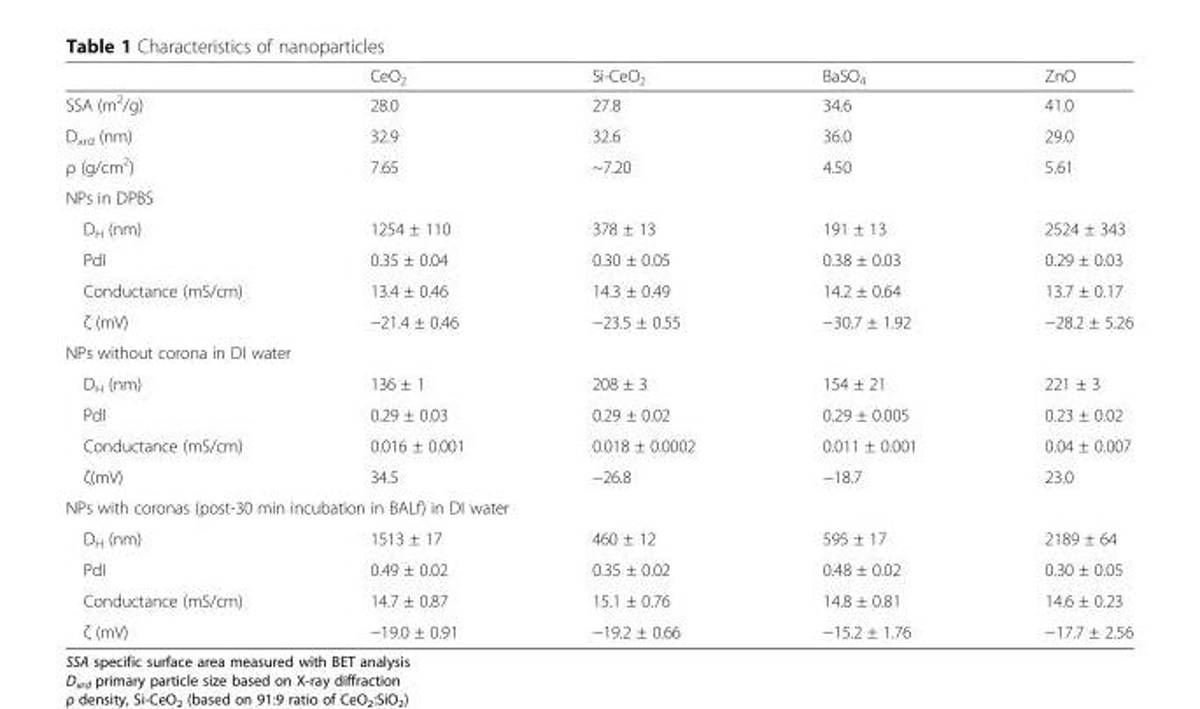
<table><thead><tr><td></td><td>CeO<sub>2</sub></td><td>Si-CeO<sub>2</sub></td><td>BaSO<sub>4</sub></td><td>ZnO</td></tr></thead><tbody><tr><td>SSA (m<sup>2</sup>/g)</td><td>28.0</td><td>27.8</td><td>34.6</td><td>41.0</td></tr><tr><td>D<sub>xrd</sub> (nm)</td><td>32.9</td><td>32.6</td><td>36.0</td><td>29.0</td></tr><tr><td>ρ (g/cm<sup>2</sup>)</td><td>7.65</td><td>~7.20</td><td>4.50</td><td>5.61</td></tr><tr><td colspan="5">NPs in DPBS</td></tr><tr><td>D<sub>H</sub> (nm)</td><td>1254 ± 110</td><td>378 ± 13</td><td>191 ± 13</td><td>2524 ± 343</td></tr><tr><td>PdI</td><td>0.35 ± 0.04</td><td>0.30 ± 0.05</td><td>0.38 ± 0.03</td><td>0.29 ± 0.03</td></tr><tr><td>Conductance (mS/cm)</td><td>13.4 ± 0.46</td><td>14.3 ± 0.49</td><td>14.2 ± 0.64</td><td>13.7 ± 0.17</td></tr><tr><td>ζ (mV)</td><td>−21.4 ± 0.46</td><td>−23.5 ± 0.55</td><td>−30.7 ± 1.92</td><td>−28.2 ± 5.26</td></tr><tr><td colspan="5">NPs without corona in DI water</td></tr><tr><td>D<sub>H</sub> (nm)</td><td>136 ± 1</td><td>208 ± 3</td><td>154 ± 21</td><td>221 ± 3</td></tr><tr><td>PdI</td><td>0.29 ± 0.03</td><td>0.29 ± 0.02</td><td>0.29 ± 0.005</td><td>0.23 ± 0.02</td></tr><tr><td>Conductance (mS/cm)</td><td>0.016 ± 0.001</td><td>0.018 ± 0.0002</td><td>0.011 ± 0.001</td><td>0.04 ± 0.007</td></tr><tr><td>ζ(mV)</td><td>34.5</td><td>−26.8</td><td>−18.7</td><td>23.0</td></tr><tr><td colspan="5">NPs with coronas (post-30 min incubation in BALf) in DI water</td></tr><tr><td>D<sub>H</sub> (nm)</td><td>1513 ± 17</td><td>460 ± 12</td><td>595 ± 17</td><td>2189 ± 64</td></tr><tr><td>PdI</td><td>0.49 ± 0.02</td><td>0.35 ± 0.02</td><td>0.48 ± 0.02</td><td>0.30 ± 0.05</td></tr><tr><td>Conductance (mS/cm)</td><td>14.7 ± 0.87</td><td>15.1 ± 0.76</td><td>14.8 ± 0.81</td><td>14.6 ± 0.23</td></tr><tr><td>ζ (mV)</td><td>−19.0 ± 0.91</td><td>−19.2 ± 0.66</td><td>−15.2 ± 1.76</td><td>−17.7 ± 2.56</td></tr></tbody></table>